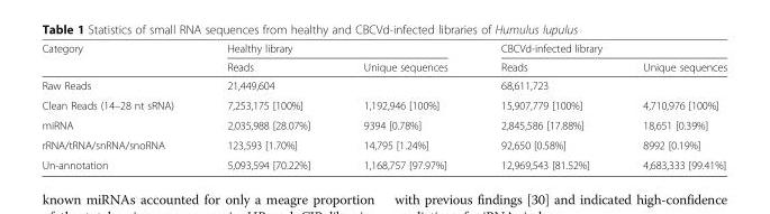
<table><thead><tr><td rowspan="2">Category</td><td colspan="2">Healthy library</td><td colspan="2">CBCVd-infected library</td></tr><tr><td>Reads</td><td>Unique sequences</td><td>Reads</td><td>Unique sequences</td></tr></thead><tbody><tr><td>Raw Reads</td><td>21,449,604</td><td></td><td>68,611,723</td><td></td></tr><tr><td>Clean Reads (14–28 nt sRNA)</td><td>7,253,175 [100%]</td><td>1,192,946 [100%]</td><td>15,907,779 [100%]</td><td>4,710,976 [100%]</td></tr><tr><td>miRNA</td><td>2,035,988 [28.07%]</td><td>9394 [0.78%]</td><td>2,845,586 [17.88%]</td><td>18,651 [0.39%]</td></tr><tr><td>rRNA/tRNA/snRNA/snoRNA</td><td>123,593 [1.70%]</td><td>14,795 [1.24%]</td><td>92,650 [0.58%]</td><td>8992 [0.19%]</td></tr><tr><td>Un-annotation</td><td>5,093,594 [70.22%]</td><td>1,168,757 [97.97%]</td><td>12,969,543 [81.52%]</td><td>4,683,333 [99.41%]</td></tr></tbody></table>